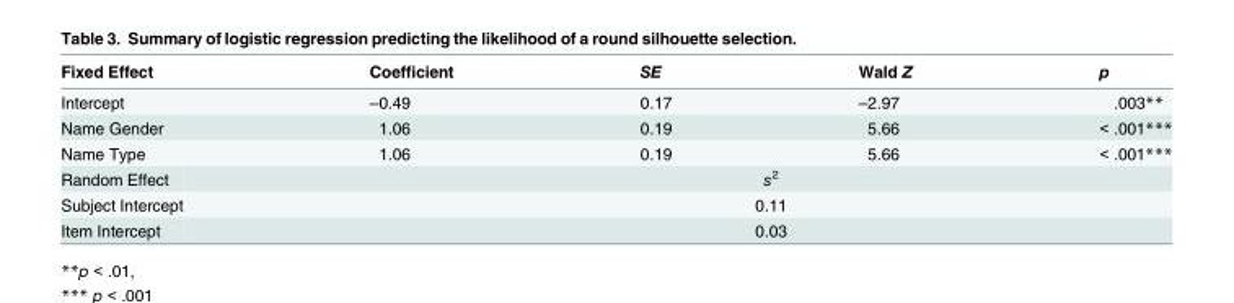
<table><thead><tr><td>Fixed Effect</td><td>Coefficient</td><td>SE</td><td>Wald Z</td><td>p</td></tr></thead><tbody><tr><td>Intercept</td><td>–0.49</td><td>0.17</td><td>–2.97</td><td>.003**</td></tr><tr><td>Name Gender</td><td>1.06</td><td>0.19</td><td>5.66</td><td>&lt; .001***</td></tr><tr><td>Name Type</td><td>1.06</td><td>0.19</td><td>5.66</td><td>&lt; .001***</td></tr><tr><td>Random Effect</td><td colspan="4">s<sup>2</sup></td></tr><tr><td>Subject Intercept</td><td colspan="4">0.11</td></tr><tr><td>Item Intercept</td><td colspan="4">0.03</td></tr></tbody></table>